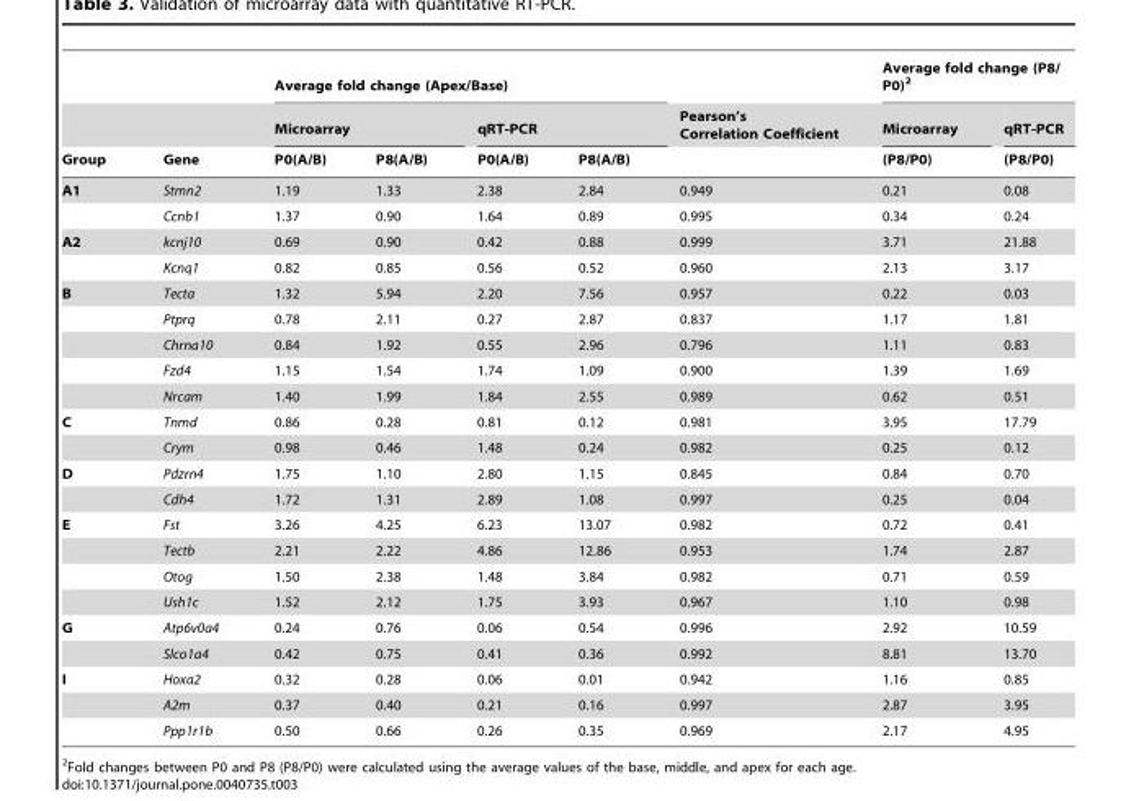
<table><thead><tr><td rowspan="3">Group</td><td rowspan="3">Gene</td><td colspan="4">Average fold change (Apex/Base)</td><td rowspan="3">Pearson’s Correlation Coefficient</td><td colspan="2">Average fold change (P8/ P0)<sup>2</sup></td></tr><tr><td colspan="2">Microarray</td><td colspan="2">qRT-PCR</td><td rowspan="2">Microarray (P8/P0)</td><td rowspan="2">qRT-PCR (P8/P0)</td></tr><tr><td>P0(A/B)</td><td>P8(A/B)</td><td>P0(A/B)</td><td>P8(A/B)</td></tr></thead><tbody><tr><td rowspan="2">A1</td><td>Stmn2</td><td>1.19</td><td>1.33</td><td>2.38</td><td>2.84</td><td>0.949</td><td>0.21</td><td>0.08</td></tr><tr><td>Ccnb1</td><td>1.37</td><td>0.90</td><td>1.64</td><td>0.89</td><td>0.995</td><td>0.34</td><td>0.24</td></tr><tr><td rowspan="2">A2</td><td>kcnj10</td><td>0.69</td><td>0.90</td><td>0.42</td><td>0.88</td><td>0.999</td><td>3.71</td><td>21.88</td></tr><tr><td>Kcnq1</td><td>0.82</td><td>0.85</td><td>0.56</td><td>0.52</td><td>0.960</td><td>2.13</td><td>3.17</td></tr><tr><td rowspan="5">B</td><td>Tecta</td><td>1.32</td><td>5.94</td><td>2.20</td><td>7.56</td><td>0.957</td><td>0.22</td><td>0.03</td></tr><tr><td>Ptprq</td><td>0.78</td><td>2.11</td><td>0.27</td><td>2.87</td><td>0.837</td><td>1.17</td><td>1.81</td></tr><tr><td>Chrna10</td><td>0.84</td><td>1.92</td><td>0.55</td><td>2.96</td><td>0.796</td><td>1.11</td><td>0.83</td></tr><tr><td>Fzd4</td><td>1.15</td><td>1.54</td><td>1.74</td><td>1.09</td><td>0.900</td><td>1.39</td><td>1.69</td></tr><tr><td>Nrcam</td><td>1.40</td><td>1.99</td><td>1.84</td><td>2.55</td><td>0.989</td><td>0.62</td><td>0.51</td></tr><tr><td rowspan="2">C</td><td>Tnmd</td><td>0.86</td><td>0.28</td><td>0.81</td><td>0.12</td><td>0.981</td><td>3.95</td><td>17.79</td></tr><tr><td>Crym</td><td>0.98</td><td>0.46</td><td>1.48</td><td>0.24</td><td>0.982</td><td>0.25</td><td>0.12</td></tr><tr><td rowspan="2">D</td><td>Pdzrn4</td><td>1.75</td><td>1.10</td><td>2.80</td><td>1.15</td><td>0.845</td><td>0.84</td><td>0.70</td></tr><tr><td>Cdh4</td><td>1.72</td><td>1.31</td><td>2.89</td><td>1.08</td><td>0.997</td><td>0.25</td><td>0.04</td></tr><tr><td rowspan="4">E</td><td>Fst</td><td>3.26</td><td>4.25</td><td>6.23</td><td>13.07</td><td>0.982</td><td>0.72</td><td>0.41</td></tr><tr><td>Tectb</td><td>2.21</td><td>2.22</td><td>4.86</td><td>12.86</td><td>0.953</td><td>1.74</td><td>2.87</td></tr><tr><td>Otog</td><td>1.50</td><td>2.38</td><td>1.48</td><td>3.84</td><td>0.982</td><td>0.71</td><td>0.59</td></tr><tr><td>Ush1c</td><td>1.52</td><td>2.12</td><td>1.75</td><td>3.93</td><td>0.967</td><td>1.10</td><td>0.98</td></tr><tr><td rowspan="2">G</td><td>Atp6v0a4</td><td>0.24</td><td>0.76</td><td>0.06</td><td>0.54</td><td>0.996</td><td>2.92</td><td>10.59</td></tr><tr><td>Slco1a4</td><td>0.42</td><td>0.75</td><td>0.41</td><td>0.36</td><td>0.992</td><td>8.81</td><td>13.70</td></tr><tr><td rowspan="3">I</td><td>Hoxa2</td><td>0.32</td><td>0.28</td><td>0.06</td><td>0.01</td><td>0.942</td><td>1.16</td><td>0.85</td></tr><tr><td>A2m</td><td>0.37</td><td>0.40</td><td>0.21</td><td>0.16</td><td>0.997</td><td>2.87</td><td>3.95</td></tr><tr><td>Ppp1r1b</td><td>0.50</td><td>0.66</td><td>0.26</td><td>0.35</td><td>0.969</td><td>2.17</td><td>4.95</td></tr></tbody></table>